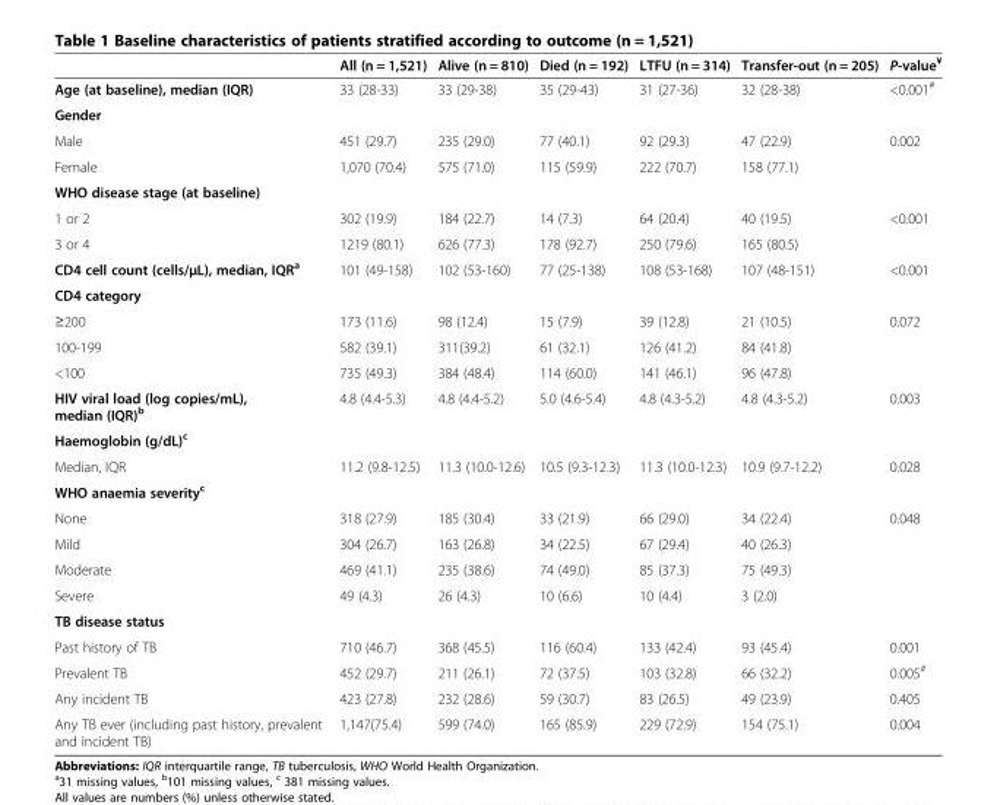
<table><thead><tr><td></td><td>All (n = 1,521)</td><td>Alive (n = 810)</td><td>Died (n = 192)</td><td>LTFU (n = 314)</td><td>Transfer-out (n = 205)</td><td>P-value<sup>¥</sup></td></tr></thead><tbody><tr><td>Age (at baseline), median (IQR)</td><td>33 (28-33)</td><td>33 (29-38)</td><td>35 (29-43)</td><td>31 (27-36)</td><td>32 (28-38)</td><td>&lt;0.001<sup>#</sup></td></tr><tr><td colspan="7">Gender</td></tr><tr><td>Male</td><td>451 (29.7)</td><td>235 (29.0)</td><td>77 (40.1)</td><td>92 (29.3)</td><td>47 (22.9)</td><td>0.002</td></tr><tr><td>Female</td><td>1,070 (70.4)</td><td>575 (71.0)</td><td>115 (59.9)</td><td>222 (70.7)</td><td>158 (77.1)</td><td></td></tr><tr><td colspan="7">WHO disease stage (at baseline)</td></tr><tr><td>1 or 2</td><td>302 (19.9)</td><td>184 (22.7)</td><td>14 (7.3)</td><td>64 (20.4)</td><td>40 (19.5)</td><td>&lt;0.001</td></tr><tr><td>3 or 4</td><td>1219 (80.1)</td><td>626 (77.3)</td><td>178 (92.7)</td><td>250 (79.6)</td><td>165 (80.5)</td><td></td></tr><tr><td>CD4 cell count (cells/μL), median, IQR<sup>a</sup></td><td>101 (49-158)</td><td>102 (53-160)</td><td>77 (25-138)</td><td>108 (53-168)</td><td>107 (48-151)</td><td>&lt;0.001</td></tr><tr><td colspan="7">CD4 category</td></tr><tr><td>≥200</td><td>173 (11.6)</td><td>98 (12.4)</td><td>15 (7.9)</td><td>39 (12.8)</td><td>21 (10.5)</td><td>0.072</td></tr><tr><td>100-199</td><td>582 (39.1)</td><td>311(39.2)</td><td>61 (32.1)</td><td>126 (41.2)</td><td>84 (41.8)</td><td></td></tr><tr><td>&lt;100</td><td>735 (49.3)</td><td>384 (48.4)</td><td>114 (60.0)</td><td>141 (46.1)</td><td>96 (47.8)</td><td></td></tr><tr><td>HIV viral load (log copies/mL), median (IQR)<sup>b</sup></td><td>4.8 (4.4-5.3)</td><td>4.8 (4.4-5.2)</td><td>5.0 (4.6-5.4)</td><td>4.8 (4.3-5.2)</td><td>4.8 (4.3-5.2)</td><td>0.003</td></tr><tr><td colspan="7">Haemoglobin (g/dL)<sup>c</sup></td></tr><tr><td>Median, IQR</td><td>11.2 (9.8-12.5)</td><td>11.3 (10.0-12.6)</td><td>10.5 (9.3-12.3)</td><td>11.3 (10.0-12.3)</td><td>10.9 (9.7-12.2)</td><td>0.028</td></tr><tr><td colspan="7">WHO anaemia severity<sup>c</sup></td></tr><tr><td>None</td><td>318 (27.9)</td><td>185 (30.4)</td><td>33 (21.9)</td><td>66 (29.0)</td><td>34 (22.4)</td><td>0.048</td></tr><tr><td>Mild</td><td>304 (26.7)</td><td>163 (26.8)</td><td>34 (22.5)</td><td>67 (29.4)</td><td>40 (26.3)</td><td></td></tr><tr><td>Moderate</td><td>469 (41.1)</td><td>235 (38.6)</td><td>74 (49.0)</td><td>85 (37.3)</td><td>75 (49.3)</td><td></td></tr><tr><td>Severe</td><td>49 (4.3)</td><td>26 (4.3)</td><td>10 (6.6)</td><td>10 (4.4)</td><td>3 (2.0)</td><td></td></tr><tr><td colspan="7">TB disease status</td></tr><tr><td>Past history of TB</td><td>710 (46.7)</td><td>368 (45.5)</td><td>116 (60.4)</td><td>133 (42.4)</td><td>93 (45.4)</td><td>0.001</td></tr><tr><td>Prevalent TB</td><td>452 (29.7)</td><td>211 (26.1)</td><td>72 (37.5)</td><td>103 (32.8)</td><td>66 (32.2)</td><td>0.005<sup>#</sup></td></tr><tr><td>Any incident TB</td><td>423 (27.8)</td><td>232 (28.6)</td><td>59 (30.7)</td><td>83 (26.5)</td><td>49 (23.9)</td><td>0.405</td></tr><tr><td>Any TB ever (including past history, prevalent and incident TB)</td><td>1,147(75.4)</td><td>599 (74.0)</td><td>165 (85.9)</td><td>229 (72.9)</td><td>154 (75.1)</td><td>0.004</td></tr></tbody></table>